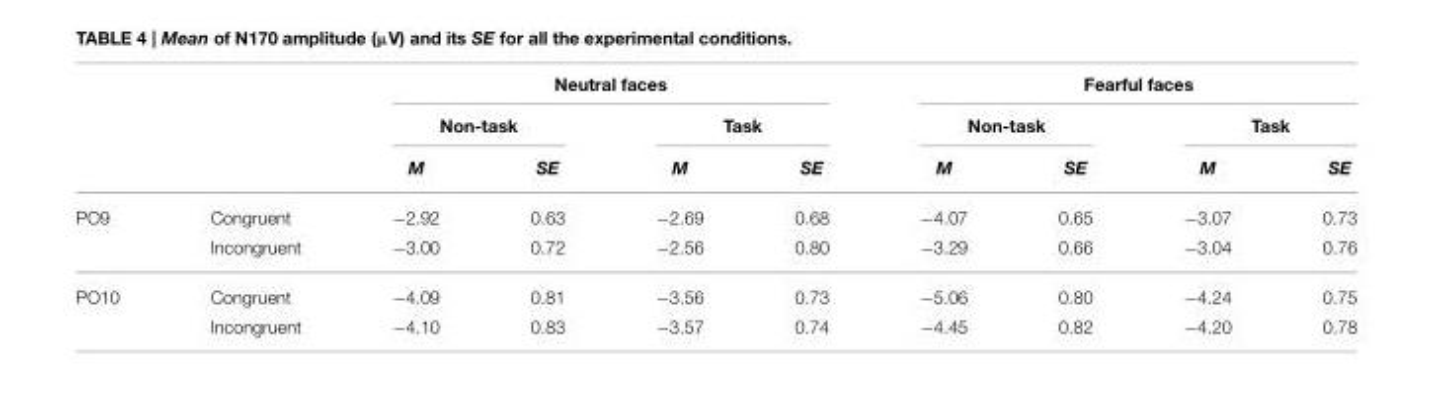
<table><thead><tr><td rowspan="3"></td><td rowspan="3"></td><td colspan="4">Neutral faces</td><td colspan="4">Fearful faces</td></tr><tr><td colspan="2">Non-task</td><td colspan="2">Task</td><td colspan="2">Non-task</td><td colspan="2">Task</td></tr><tr><td>M</td><td>SE</td><td>M</td><td>SE</td><td>M</td><td>SE</td><td>M</td><td>SE</td></tr></thead><tbody><tr><td rowspan="2">PO9</td><td>Congruent</td><td>−2.92</td><td>0.63</td><td>−2.69</td><td>0.68</td><td>−4.07</td><td>0.65</td><td>−3.07</td><td>0.73</td></tr><tr><td>Incongruent</td><td>−3.00</td><td>0.72</td><td>−2.56</td><td>0.80</td><td>−3.29</td><td>0.66</td><td>−3.04</td><td>0.76</td></tr><tr><td rowspan="2">PO10</td><td>Congruent</td><td>−4.09</td><td>0.81</td><td>−3.56</td><td>0.73</td><td>−5.06</td><td>0.80</td><td>−4.24</td><td>0.75</td></tr><tr><td>Incongruent</td><td>−4.10</td><td>0.83</td><td>−3.57</td><td>0.74</td><td>−4.45</td><td>0.82</td><td>−4.20</td><td>0.78</td></tr></tbody></table>